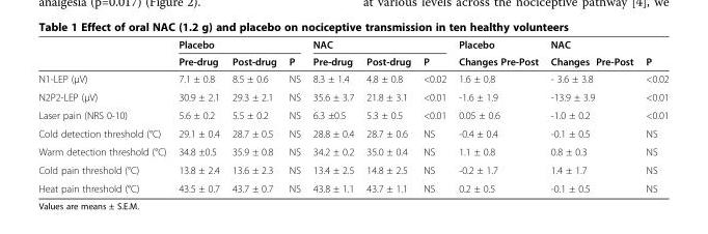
<table><thead><tr><td rowspan="2"></td><td colspan="3">Placebo</td><td colspan="3">NAC</td><td rowspan="2">Placebo Changes Pre-Post</td><td rowspan="2">NAC Changes Pre-Post</td><td rowspan="2">P</td></tr><tr><td>Pre-drug</td><td>Post-drug</td><td>P</td><td>Pre-drug</td><td>Post-drug</td><td>P</td></tr></thead><tbody><tr><td>N1-LEP (μV)</td><td>7.1 ± 0.8</td><td>8.5 ± 0.6</td><td>NS</td><td>8.3 ± 1.4</td><td>4.8 ± 0.8</td><td>&lt;0.02</td><td>1.6 ± 0.8</td><td>- 3.6 ± 3.8</td><td>&lt;0.02</td></tr><tr><td>N2P2-LEP (μV)</td><td>30.9 ± 2.1</td><td>29.3 ± 2.1</td><td>NS</td><td>35.6 ± 3.7</td><td>21.8 ± 3.1</td><td>&lt;0.01</td><td>-1.6 ± 1.9</td><td>-13.9 ± 3.9</td><td>&lt;0.01</td></tr><tr><td>Laser pain (NRS 0-10)</td><td>5.6 ± 0.2</td><td>5.5 ± 0.2</td><td>NS</td><td>6.3 ±0.5</td><td>5.3 ± 0.5</td><td>&lt;0.01</td><td>0.05 ± 0.6</td><td>-1.0 ± 0.2</td><td>&lt;0.01</td></tr><tr><td>Cold detection threshold (°C)</td><td>29.1 ± 0.4</td><td>28.7 ± 0.5</td><td>NS</td><td>28.8 ± 0.4</td><td>28.7 ± 0.6</td><td>NS</td><td>-0.4 ± 0.4</td><td>-0.1 ± 0.5</td><td>NS</td></tr><tr><td>Warm detection threshold (°C)</td><td>34.8 ±0.5</td><td>35.9 ± 0.8</td><td>NS</td><td>34.2 ± 0.2</td><td>35.0 ± 0.4</td><td>NS</td><td>1.1 ± 0.8</td><td>0.8 ± 0.3</td><td>NS</td></tr><tr><td>Cold pain threshold (°C)</td><td>13.8 ± 2.4</td><td>13.6 ± 2.3</td><td>NS</td><td>13.4 ± 2.5</td><td>14.8 ± 2.5</td><td>NS</td><td>-0.2 ± 1.7</td><td>1.4 ± 1.7</td><td>NS</td></tr><tr><td>Heat pain threshold (°C)</td><td>43.5 ± 0.7</td><td>43.7 ± 0.7</td><td>NS</td><td>43.8 ± 1.1</td><td>43.7 ± 1.1</td><td>NS</td><td>0.2 ± 0.5</td><td>-0.1 ± 0.5</td><td>NS</td></tr></tbody></table>